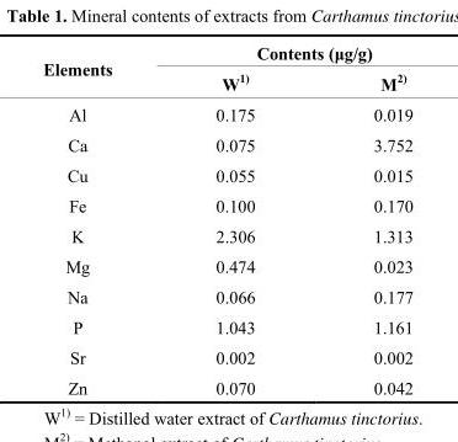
<table><thead><tr><td rowspan="2">Elements</td><td colspan="2">Contents (μg/g)</td></tr><tr><td>W<sup>1)</sup></td><td>M<sup>2)</sup></td></tr></thead><tbody><tr><td>Al</td><td>0.175</td><td>0.019</td></tr><tr><td>Ca</td><td>0.075</td><td>3.752</td></tr><tr><td>Cu</td><td>0.055</td><td>0.015</td></tr><tr><td>Fe</td><td>0.100</td><td>0.170</td></tr><tr><td>K</td><td>2.306</td><td>1.313</td></tr><tr><td>Mg</td><td>0.474</td><td>0.023</td></tr><tr><td>Na</td><td>0.066</td><td>0.177</td></tr><tr><td>P</td><td>1.043</td><td>1.161</td></tr><tr><td>Sr</td><td>0.002</td><td>0.002</td></tr><tr><td>Zn</td><td>0.070</td><td>0.042</td></tr></tbody></table>